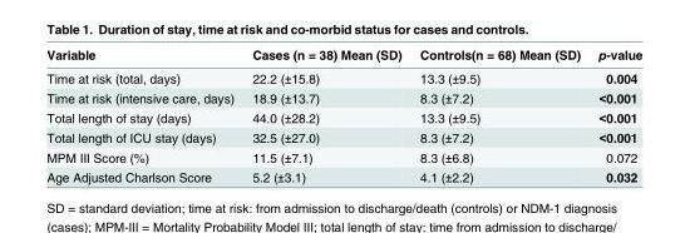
<table><thead><tr><td>Variable</td><td>Cases (n = 38) Mean (SD)</td><td>Controls(n = 68) Mean (SD)</td><td>p-value</td></tr></thead><tbody><tr><td>Time at risk (total, days)</td><td>22.2 (±15.8)</td><td>13.3 (±9.5)</td><td>0.004</td></tr><tr><td>Time at risk (intensive care, days)</td><td>18.9 (±13.7)</td><td>8.3 (±7.2)</td><td>&lt;0.001</td></tr><tr><td>Total length of stay (days)</td><td>44.0 (±28.2)</td><td>13.3 (±9.5)</td><td>&lt;0.001</td></tr><tr><td>Total length of ICU stay (days)</td><td>32.5 (±27.0)</td><td>8.3 (±7.2)</td><td>&lt;0.001</td></tr><tr><td>MPM III Score (%)</td><td>11.5 (±7.1)</td><td>8.3 (±6.8)</td><td>0.072</td></tr><tr><td>Age Adjusted Charlson Score</td><td>5.2 (±3.1)</td><td>4.1 (±2.2)</td><td>0.032</td></tr></tbody></table>